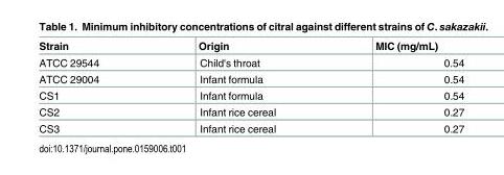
<table><thead><tr><td>Strain</td><td>Origin</td><td>MIC (mg/mL)</td></tr></thead><tbody><tr><td>ATCC 29544</td><td>Child&#x27;s throat</td><td>0.54</td></tr><tr><td>ATCC 29004</td><td>Infant formula</td><td>0.54</td></tr><tr><td>CS1</td><td>Infant formula</td><td>0.54</td></tr><tr><td>CS2</td><td>Infant rice cereal</td><td>0.27</td></tr><tr><td>CS3</td><td>Infant rice cereal</td><td>0.27</td></tr></tbody></table>